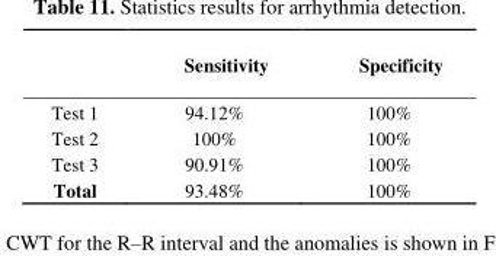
<table><thead><tr><td></td><td>Sensitivity</td><td>Specificity</td></tr></thead><tbody><tr><td>Test 1</td><td>94.12%</td><td>100%</td></tr><tr><td>Test 2</td><td>100%</td><td>100%</td></tr><tr><td>Test 3</td><td>90.91%</td><td>100%</td></tr><tr><td>Total</td><td>93.48%</td><td>100%</td></tr></tbody></table>